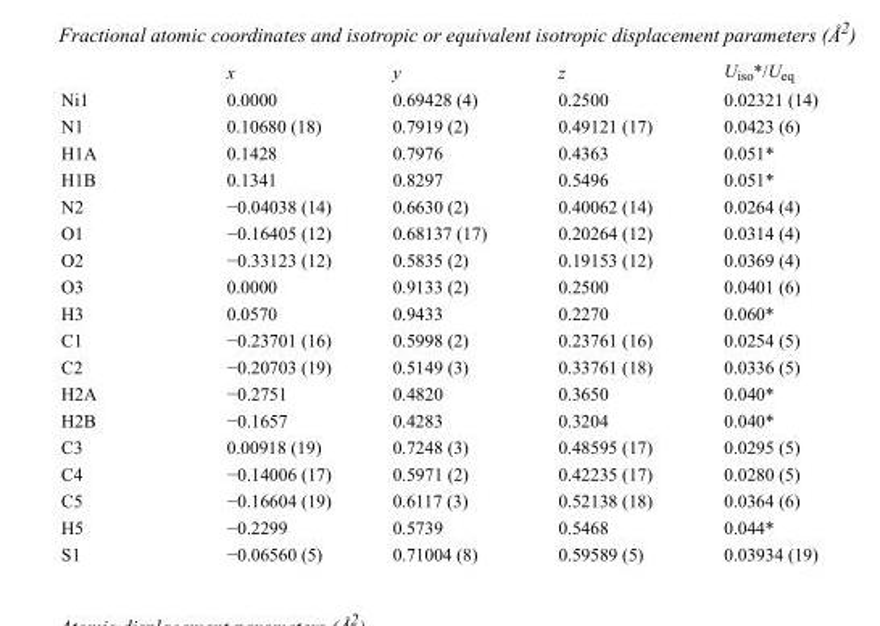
<table><thead><tr><td></td><td>x</td><td>y</td><td>z</td><td>U<sub>iso</sub>*/U<sub>eq</sub></td></tr></thead><tbody><tr><td>Ni1</td><td>0.0000</td><td>0.69428 (4)</td><td>0.2500</td><td>0.02321 (14)</td></tr><tr><td>N1</td><td>0.10680 (18)</td><td>0.7919 (2)</td><td>0.49121 (17)</td><td>0.0423 (6)</td></tr><tr><td>H1A</td><td>0.1428</td><td>0.7976</td><td>0.4363</td><td>0.051*</td></tr><tr><td>H1B</td><td>0.1341</td><td>0.8297</td><td>0.5496</td><td>0.051*</td></tr><tr><td>N2</td><td>−0.04038 (14)</td><td>0.6630 (2)</td><td>0.40062 (14)</td><td>0.0264 (4)</td></tr><tr><td>O1</td><td>−0.16405 (12)</td><td>0.68137 (17)</td><td>0.20264 (12)</td><td>0.0314 (4)</td></tr><tr><td>O2</td><td>−0.33123 (12)</td><td>0.5835 (2)</td><td>0.19153 (12)</td><td>0.0369 (4)</td></tr><tr><td>O3</td><td>0.0000</td><td>0.9133 (2)</td><td>0.2500</td><td>0.0401 (6)</td></tr><tr><td>H3</td><td>0.0570</td><td>0.9433</td><td>0.2270</td><td>0.060*</td></tr><tr><td>C1</td><td>−0.23701 (16)</td><td>0.5998 (2)</td><td>0.23761 (16)</td><td>0.0254 (5)</td></tr><tr><td>C2</td><td>−0.20703 (19)</td><td>0.5149 (3)</td><td>0.33761 (18)</td><td>0.0336 (5)</td></tr><tr><td>H2A</td><td>−0.2751</td><td>0.4820</td><td>0.3650</td><td>0.040*</td></tr><tr><td>H2B</td><td>−0.1657</td><td>0.4283</td><td>0.3204</td><td>0.040*</td></tr><tr><td>C3</td><td>0.00918 (19)</td><td>0.7248 (3)</td><td>0.48595 (17)</td><td>0.0295 (5)</td></tr><tr><td>C4</td><td>−0.14006 (17)</td><td>0.5971 (2)</td><td>0.42235 (17)</td><td>0.0280 (5)</td></tr><tr><td>C5</td><td>−0.16604 (19)</td><td>0.6117 (3)</td><td>0.52138 (18)</td><td>0.0364 (6)</td></tr><tr><td>H5</td><td>−0.2299</td><td>0.5739</td><td>0.5468</td><td>0.044*</td></tr><tr><td>S1</td><td>−0.06560 (5)</td><td>0.71004 (8)</td><td>0.59589 (5)</td><td>0.03934 (19)</td></tr></tbody></table>